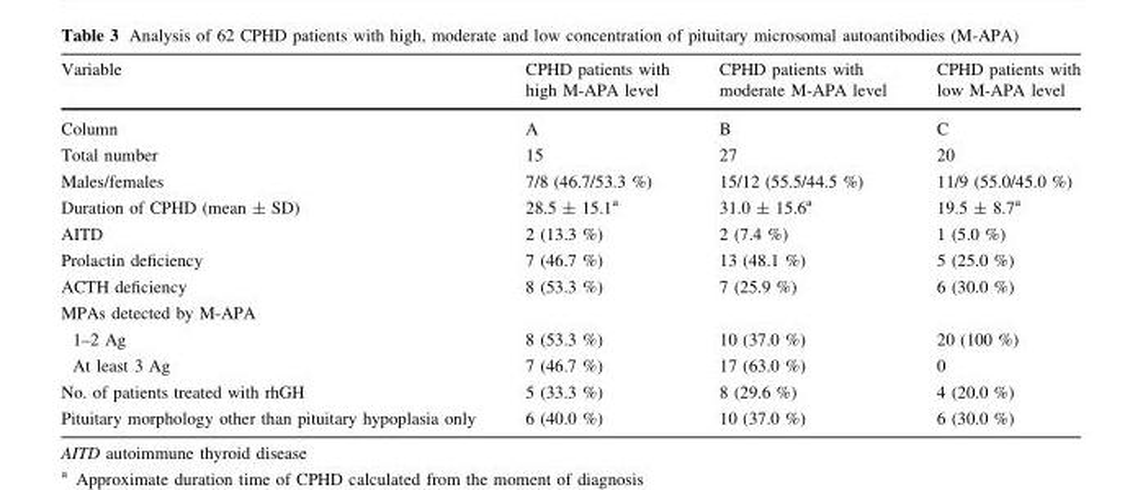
<table><thead><tr><td>Variable</td><td>CPHD patients with high M-APA level</td><td>CPHD patients with moderate M-APA level</td><td>CPHD patients with low M-APA level</td></tr></thead><tbody><tr><td>Column</td><td>A</td><td>B</td><td>C</td></tr><tr><td>Total number</td><td>15</td><td>27</td><td>20</td></tr><tr><td>Males/females</td><td>7/8 (46.7/53.3 %)</td><td>15/12 (55.5/44.5 %)</td><td>11/9 (55.0/45.0 %)</td></tr><tr><td>Duration of CPHD (mean ± SD)</td><td>28.5 ± 15.1<sup>a</sup></td><td>31.0 ± 15.6<sup>a</sup></td><td>19.5 ± 8.7<sup>a</sup></td></tr><tr><td>AITD</td><td>2 (13.3 %)</td><td>2 (7.4 %)</td><td>1 (5.0 %)</td></tr><tr><td>Prolactin deficiency</td><td>7 (46.7 %)</td><td>13 (48.1 %)</td><td>5 (25.0 %)</td></tr><tr><td>ACTH deficiency</td><td>8 (53.3 %)</td><td>7 (25.9 %)</td><td>6 (30.0 %)</td></tr><tr><td colspan="4">MPAs detected by M-APA</td></tr><tr><td>1–2 Ag</td><td>8 (53.3 %)</td><td>10 (37.0 %)</td><td>20 (100 %)</td></tr><tr><td>At least 3 Ag</td><td>7 (46.7 %)</td><td>17 (63.0 %)</td><td>0</td></tr><tr><td>No. of patients treated with rhGH</td><td>5 (33.3 %)</td><td>8 (29.6 %)</td><td>4 (20.0 %)</td></tr><tr><td>Pituitary morphology other than pituitary hypoplasia only</td><td>6 (40.0 %)</td><td>10 (37.0 %)</td><td>6 (30.0 %)</td></tr></tbody></table>